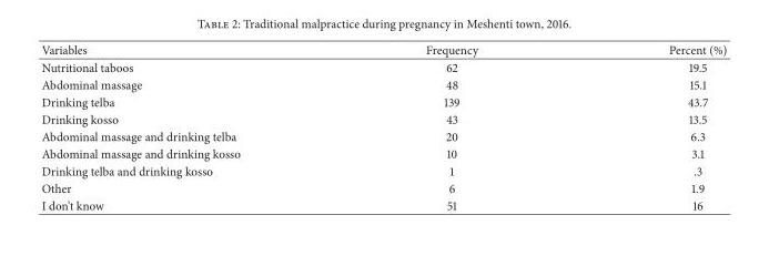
<table><thead><tr><td>Variables</td><td>Frequency</td><td>Percent (%)</td></tr></thead><tbody><tr><td>Nutritional taboos</td><td>62</td><td>19.5</td></tr><tr><td>Abdominal massage</td><td>48</td><td>15.1</td></tr><tr><td>Drinking telba</td><td>139</td><td>43.7</td></tr><tr><td>Drinking kosso</td><td>43</td><td>13.5</td></tr><tr><td>Abdominal massage and drinking telba</td><td>20</td><td>6.3</td></tr><tr><td>Abdominal massage and drinking kosso</td><td>10</td><td>3.1</td></tr><tr><td>Drinking telba and drinking kosso</td><td>1</td><td>.3</td></tr><tr><td>Other</td><td>6</td><td>1.9</td></tr><tr><td>I don’t know</td><td>51</td><td>16</td></tr></tbody></table>